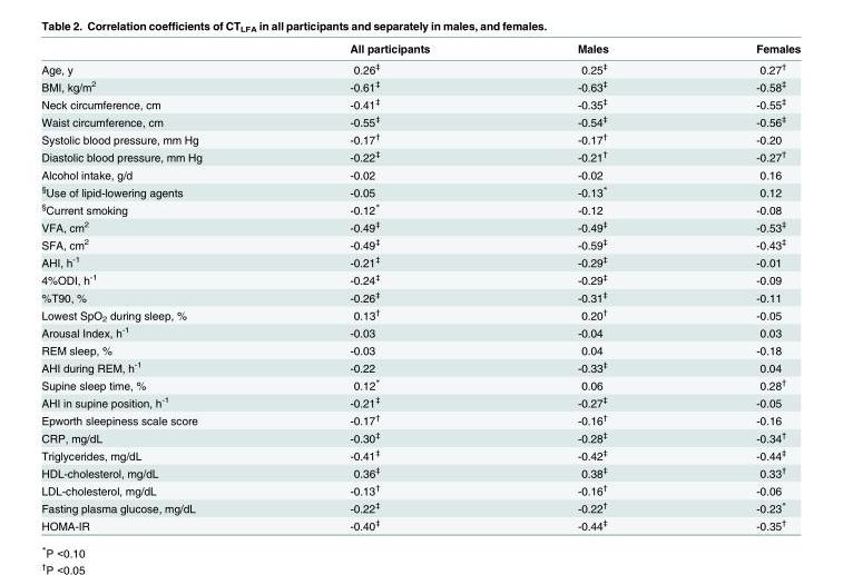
<table><thead><tr><td></td><td>All participants</td><td>Males</td><td>Females</td></tr></thead><tbody><tr><td>Age, y</td><td>0.26<sup>‡</sup></td><td>0.25<sup>‡</sup></td><td>0.27<sup>†</sup></td></tr><tr><td>BMI, kg/m<sup>2</sup></td><td>-0.61<sup>‡</sup></td><td>-0.63<sup>‡</sup></td><td>-0.58<sup>‡</sup></td></tr><tr><td>Neck circumference, cm</td><td>-0.41<sup>‡</sup></td><td>-0.35<sup>‡</sup></td><td>-0.55<sup>‡</sup></td></tr><tr><td>Waist circumference, cm</td><td>-0.55<sup>‡</sup></td><td>-0.54<sup>‡</sup></td><td>-0.56<sup>‡</sup></td></tr><tr><td>Systolic blood pressure, mm Hg</td><td>-0.17<sup>†</sup></td><td>-0.17<sup>†</sup></td><td>-0.20</td></tr><tr><td>Diastolic blood pressure, mm Hg</td><td>-0.22<sup>‡</sup></td><td>-0.21<sup>†</sup></td><td>-0.27<sup>†</sup></td></tr><tr><td>Alcohol intake, g/d</td><td>-0.02</td><td>-0.02</td><td>0.16</td></tr><tr><td><sup>§</sup>Use of lipid-lowering agents</td><td>-0.05</td><td>-0.13*</td><td>0.12</td></tr><tr><td><sup>§</sup>Current smoking</td><td>-0.12*</td><td>-0.12</td><td>-0.08</td></tr><tr><td>VFA, cm<sup>2</sup></td><td>-0.49<sup>‡</sup></td><td>-0.49<sup>‡</sup></td><td>-0.53<sup>‡</sup></td></tr><tr><td>SFA, cm<sup>2</sup></td><td>-0.49<sup>‡</sup></td><td>-0.59<sup>‡</sup></td><td>-0.43<sup>‡</sup></td></tr><tr><td>AHI, h<sup>-1</sup></td><td>-0.21<sup>‡</sup></td><td>-0.29<sup>‡</sup></td><td>-0.01</td></tr><tr><td>4%ODI, h<sup>-1</sup></td><td>-0.24<sup>‡</sup></td><td>-0.29<sup>‡</sup></td><td>-0.09</td></tr><tr><td>%T90, %</td><td>-0.26<sup>‡</sup></td><td>-0.31<sup>‡</sup></td><td>-0.11</td></tr><tr><td>Lowest SpO<sub>2</sub> during sleep, %</td><td>0.13<sup>†</sup></td><td>0.20<sup>†</sup></td><td>-0.05</td></tr><tr><td>Arousal Index, h<sup>-1</sup></td><td>-0.03</td><td>-0.04</td><td>0.03</td></tr><tr><td>REM sleep, %</td><td>-0.03</td><td>0.04</td><td>-0.18</td></tr><tr><td>AHI during REM, h<sup>-1</sup></td><td>-0.22</td><td>-0.33<sup>‡</sup></td><td>0.04</td></tr><tr><td>Supine sleep time, %</td><td>0.12*</td><td>0.06</td><td>0.28<sup>†</sup></td></tr><tr><td>AHI in supine position, h<sup>-1</sup></td><td>-0.21<sup>‡</sup></td><td>-0.27<sup>‡</sup></td><td>-0.05</td></tr><tr><td>Epworth sleepiness scale score</td><td>-0.17<sup>†</sup></td><td>-0.16<sup>†</sup></td><td>-0.16</td></tr><tr><td>CRP, mg/dL</td><td>-0.30<sup>‡</sup></td><td>-0.28<sup>‡</sup></td><td>-0.34<sup>†</sup></td></tr><tr><td>Triglycerides, mg/dL</td><td>-0.41<sup>‡</sup></td><td>-0.42<sup>‡</sup></td><td>-0.44<sup>‡</sup></td></tr><tr><td>HDL-cholesterol, mg/dL</td><td>0.36<sup>‡</sup></td><td>0.38<sup>‡</sup></td><td>0.33<sup>†</sup></td></tr><tr><td>LDL-cholesterol, mg/dL</td><td>-0.13<sup>†</sup></td><td>-0.16<sup>†</sup></td><td>-0.06</td></tr><tr><td>Fasting plasma glucose, mg/dL</td><td>-0.22<sup>‡</sup></td><td>-0.22<sup>†</sup></td><td>-0.23*</td></tr><tr><td>HOMA-IR</td><td>-0.40<sup>‡</sup></td><td>-0.44<sup>‡</sup></td><td>-0.35<sup>†</sup></td></tr></tbody></table>